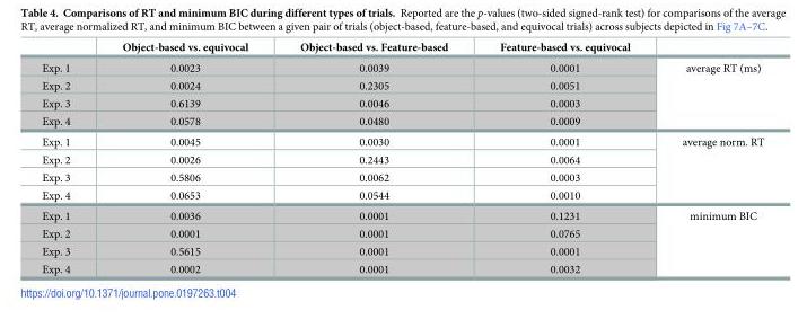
<table><thead><tr><td></td><td>Object-based vs. equivocal</td><td>Object-based vs. Feature-based</td><td>Feature-based vs. equivocal</td><td></td></tr></thead><tbody><tr><td>Exp. 1</td><td>0.0023</td><td>0.0039</td><td>0.0001</td><td rowspan="4">average RT (ms)</td></tr><tr><td>Exp. 2</td><td>0.0024</td><td>0.2305</td><td>0.0051</td></tr><tr><td>Exp. 3</td><td>0.6139</td><td>0.0046</td><td>0.0003</td></tr><tr><td>Exp. 4</td><td>0.0578</td><td>0.0480</td><td>0.0009</td></tr><tr><td>Exp. 1</td><td>0.0045</td><td>0.0030</td><td>0.0001</td><td rowspan="4">average norm. RT</td></tr><tr><td>Exp. 2</td><td>0.0026</td><td>0.2443</td><td>0.0064</td></tr><tr><td>Exp. 3</td><td>0.5806</td><td>0.0062</td><td>0.0003</td></tr><tr><td>Exp. 4</td><td>0.0653</td><td>0.0544</td><td>0.0010</td></tr><tr><td>Exp. 1</td><td>0.0036</td><td>0.0001</td><td>0.1231</td><td rowspan="4">minimum BIC</td></tr><tr><td>Exp. 2</td><td>0.0001</td><td>0.0001</td><td>0.0765</td></tr><tr><td>Exp. 3</td><td>0.5615</td><td>0.0001</td><td>0.0001</td></tr><tr><td>Exp. 4</td><td>0.0002</td><td>0.0001</td><td>0.0032</td></tr></tbody></table>